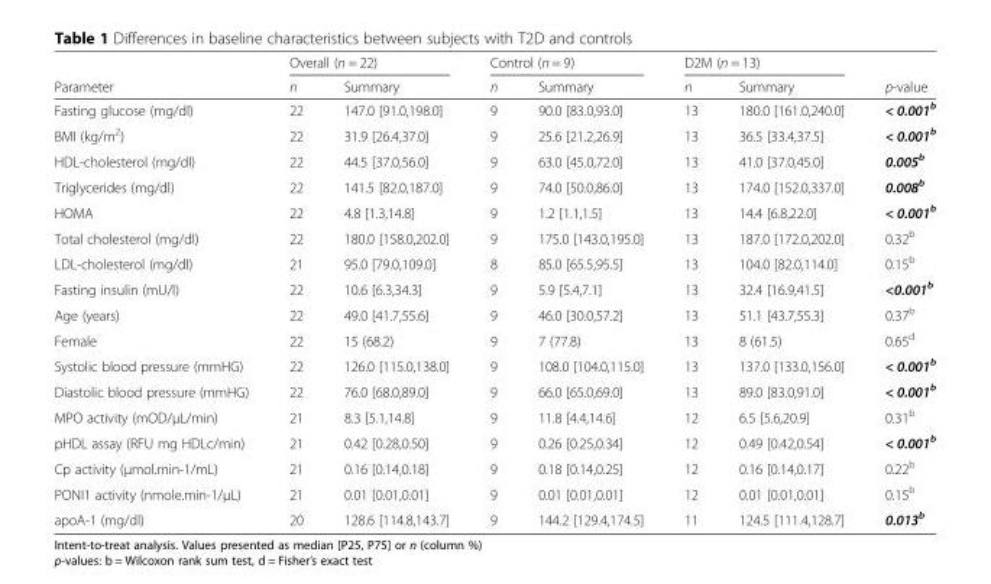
<table><thead><tr><td rowspan="2">Parameter</td><td colspan="2">Overall (n = 22)</td><td colspan="2">Control (n = 9)</td><td colspan="2">D2M (n = 13)</td><td rowspan="2">p-value</td></tr><tr><td>n</td><td>Summary</td><td>n</td><td>Summary</td><td>n</td><td>Summary</td></tr></thead><tbody><tr><td>Fasting glucose (mg/dl)</td><td>22</td><td>147.0 [91.0,198.0]</td><td>9</td><td>90.0 [83.0,93.0]</td><td>13</td><td>180.0 [161.0,240.0]</td><td>&lt; 0.001<sup>b</sup></td></tr><tr><td>BMI (kg/m<sup>2</sup>)</td><td>22</td><td>31.9 [26.4,37.0]</td><td>9</td><td>25.6 [21.2,26.9]</td><td>13</td><td>36.5 [33.4,37.5]</td><td>&lt; 0.001<sup>b</sup></td></tr><tr><td>HDL-cholesterol (mg/dl)</td><td>22</td><td>44.5 [37.0,56.0]</td><td>9</td><td>63.0 [45.0,72.0]</td><td>13</td><td>41.0 [37.0,45.0]</td><td>0.005<sup>b</sup></td></tr><tr><td>Triglycerides (mg/dl)</td><td>22</td><td>141.5 [82.0,187.0]</td><td>9</td><td>74.0 [50.0,86.0]</td><td>13</td><td>174.0 [152.0,337.0]</td><td>0.008<sup>b</sup></td></tr><tr><td>HOMA</td><td>22</td><td>4.8 [1.3,14.8]</td><td>9</td><td>1.2 [1.1,1.5]</td><td>13</td><td>14.4 [6.8,22.0]</td><td>&lt; 0.001<sup>b</sup></td></tr><tr><td>Total cholesterol (mg/dl)</td><td>22</td><td>180.0 [158.0,202.0]</td><td>9</td><td>175.0 [143.0,195.0]</td><td>13</td><td>187.0 [172.0,202.0]</td><td>0.32<sup>b</sup></td></tr><tr><td>LDL-cholesterol (mg/dl)</td><td>21</td><td>95.0 [79.0,109.0]</td><td>8</td><td>85.0 [65.5,95.5]</td><td>13</td><td>104.0 [82.0,114.0]</td><td>0.15<sup>b</sup></td></tr><tr><td>Fasting insulin (mU/l)</td><td>22</td><td>10.6 [6.3,34.3]</td><td>9</td><td>5.9 [5.4,7.1]</td><td>13</td><td>32.4 [16.9,41.5]</td><td>&lt;0.001<sup>b</sup></td></tr><tr><td>Age (years)</td><td>22</td><td>49.0 [41.7,55.6]</td><td>9</td><td>46.0 [30.0,57.2]</td><td>13</td><td>51.1 [43.7,55.3]</td><td>0.37<sup>b</sup></td></tr><tr><td>Female</td><td>22</td><td>15 (68.2)</td><td>9</td><td>7 (77.8)</td><td>13</td><td>8 (61.5)</td><td>0.65<sup>d</sup></td></tr><tr><td>Systolic blood pressure (mmHG)</td><td>22</td><td>126.0 [115.0,138.0]</td><td>9</td><td>108.0 [104.0,115.0]</td><td>13</td><td>137.0 [133.0,156.0]</td><td>&lt; 0.001<sup>b</sup></td></tr><tr><td>Diastolic blood pressure (mmHG)</td><td>22</td><td>76.0 [68.0,89.0]</td><td>9</td><td>66.0 [65.0,69.0]</td><td>13</td><td>89.0 [83.0,91.0]</td><td>&lt; 0.001<sup>b</sup></td></tr><tr><td>MPO activity (mOD/μL/min)</td><td>21</td><td>8.3 [5.1,14.8]</td><td>9</td><td>11.8 [4.4,14.6]</td><td>12</td><td>6.5 [5.6,20.9]</td><td>0.31<sup>b</sup></td></tr><tr><td>pHDL assay (RFU mg HDLc/min)</td><td>21</td><td>0.42 [0.28,0.50]</td><td>9</td><td>0.26 [0.25,0.34]</td><td>12</td><td>0.49 [0.42,0.54]</td><td>&lt; 0.001<sup>b</sup></td></tr><tr><td>Cp activity (μmol.min-1/mL)</td><td>21</td><td>0.16 [0.14,0.18]</td><td>9</td><td>0.18 [0.14,0.25]</td><td>12</td><td>0.16 [0.14,0.17]</td><td>0.22<sup>b</sup></td></tr><tr><td>PONI1 activity (nmole.min-1/μL)</td><td>21</td><td>0.01 [0.01,0.01]</td><td>9</td><td>0.01 [0.01,0.01]</td><td>12</td><td>0.01 [0.01,0.01]</td><td>0.15<sup>b</sup></td></tr><tr><td>apoA-1 (mg/dl)</td><td>20</td><td>128.6 [114.8,143.7]</td><td>9</td><td>144.2 [129.4,174.5]</td><td>11</td><td>124.5 [111.4,128.7]</td><td>0.013<sup>b</sup></td></tr></tbody></table>